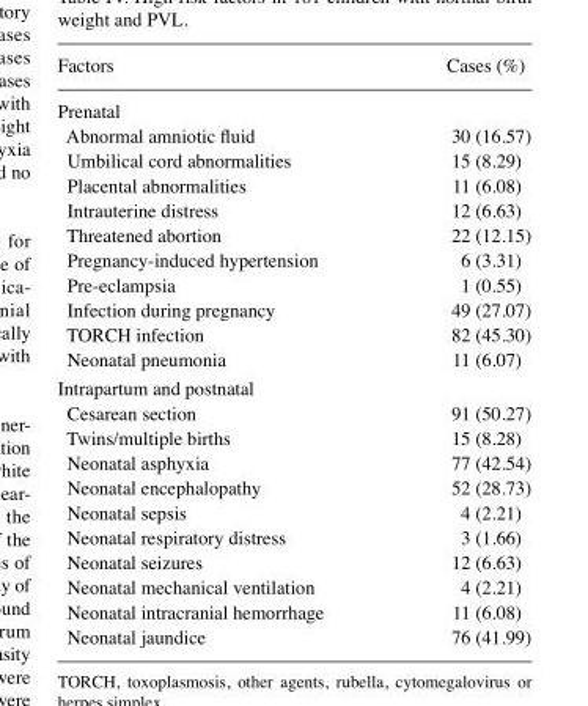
<table><thead><tr><td>Factors</td><td>Cases (%)</td></tr></thead><tbody><tr><td colspan="2">Prenatal</td></tr><tr><td>Abnormal amniotic fluid</td><td>30 (16.57)</td></tr><tr><td>Umbilical cord abnormalities</td><td>15 (8.29)</td></tr><tr><td>Placental abnormalities</td><td>11 (6.08)</td></tr><tr><td>Intrauterine distress</td><td>12 (6.63)</td></tr><tr><td>Threatened abortion</td><td>22 (12.15)</td></tr><tr><td>Pregnancy-induced hypertension</td><td>6 (3.31)</td></tr><tr><td>Pre-eclampsia</td><td>1 (0.55)</td></tr><tr><td>Infection during pregnancy</td><td>49 (27.07)</td></tr><tr><td>TORCH infection</td><td>82 (45.30)</td></tr><tr><td>Neonatal pneumonia</td><td>11 (6.07)</td></tr><tr><td colspan="2">Intrapartum and postnatal</td></tr><tr><td>Cesarean section</td><td>91 (50.27)</td></tr><tr><td>Twins/multiple births</td><td>15 (8.28)</td></tr><tr><td>Neonatal asphyxia</td><td>77 (42.54)</td></tr><tr><td>Neonatal encephalopathy</td><td>52 (28.73)</td></tr><tr><td>Neonatal sepsis</td><td>4 (2.21)</td></tr><tr><td>Neonatal respiratory distress</td><td>3 (1.66)</td></tr><tr><td>Neonatal seizures</td><td>12 (6.63)</td></tr><tr><td>Neonatal mechanical ventilation</td><td>4 (2.21)</td></tr><tr><td>Neonatal intracranial hemorrhage</td><td>11 (6.08)</td></tr><tr><td>Neonatal jaundice</td><td>76 (41.99)</td></tr></tbody></table>